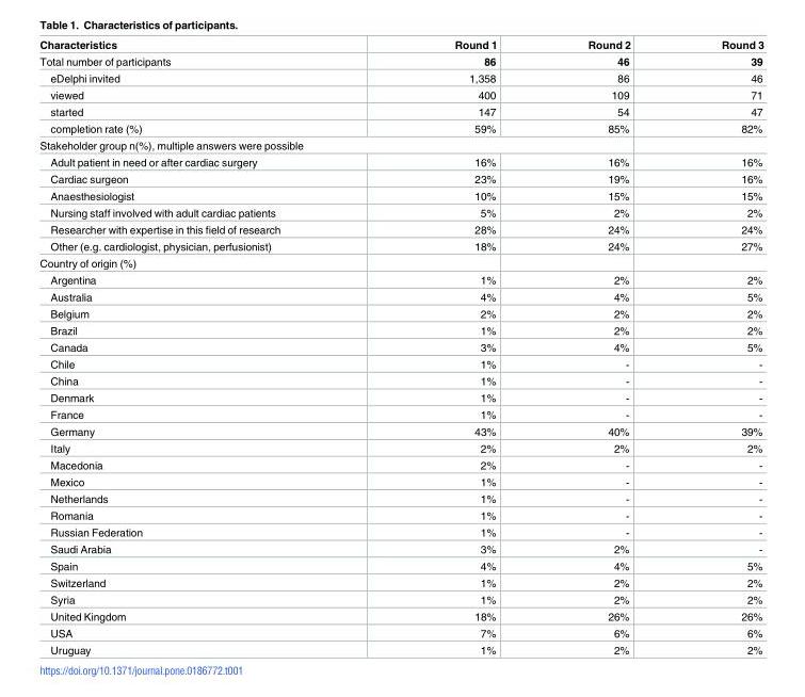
<table><thead><tr><td>Characteristics</td><td>Round 1</td><td>Round 2</td><td>Round 3</td></tr></thead><tbody><tr><td>Total number of participants</td><td>86</td><td>46</td><td>39</td></tr><tr><td>eDelphi invited</td><td>1,358</td><td>86</td><td>46</td></tr><tr><td>viewed</td><td>400</td><td>109</td><td>71</td></tr><tr><td>started</td><td>147</td><td>54</td><td>47</td></tr><tr><td>completion rate (%)</td><td>59%</td><td>85%</td><td>82%</td></tr><tr><td colspan="4">Stakeholder group n(%), multiple answers were possible</td></tr><tr><td>Adult patient in need or after cardiac surgery</td><td>16%</td><td>16%</td><td>16%</td></tr><tr><td>Cardiac surgeon</td><td>23%</td><td>19%</td><td>16%</td></tr><tr><td>Anaesthesiologist</td><td>10%</td><td>15%</td><td>15%</td></tr><tr><td>Nursing staff involved with adult cardiac patients</td><td>5%</td><td>2%</td><td>2%</td></tr><tr><td>Researcher with expertise in this field of research</td><td>28%</td><td>24%</td><td>24%</td></tr><tr><td>Other (e.g. cardiologist, physician, perfusionist)</td><td>18%</td><td>24%</td><td>27%</td></tr><tr><td colspan="4">Country of origin (%)</td></tr><tr><td>Argentina</td><td>1%</td><td>2%</td><td>2%</td></tr><tr><td>Australia</td><td>4%</td><td>4%</td><td>5%</td></tr><tr><td>Belgium</td><td>2%</td><td>2%</td><td>2%</td></tr><tr><td>Brazil</td><td>1%</td><td>2%</td><td>2%</td></tr><tr><td>Canada</td><td>3%</td><td>4%</td><td>5%</td></tr><tr><td>Chile</td><td>1%</td><td>-</td><td>-</td></tr><tr><td>China</td><td>1%</td><td>-</td><td>-</td></tr><tr><td>Denmark</td><td>1%</td><td>-</td><td>-</td></tr><tr><td>France</td><td>1%</td><td>-</td><td>-</td></tr><tr><td>Germany</td><td>43%</td><td>40%</td><td>39%</td></tr><tr><td>Italy</td><td>2%</td><td>2%</td><td>2%</td></tr><tr><td>Macedonia</td><td>2%</td><td>-</td><td>-</td></tr><tr><td>Mexico</td><td>1%</td><td>-</td><td>-</td></tr><tr><td>Netherlands</td><td>1%</td><td>-</td><td>-</td></tr><tr><td>Romania</td><td>1%</td><td>-</td><td>-</td></tr><tr><td>Russian Federation</td><td>1%</td><td>-</td><td>-</td></tr><tr><td>Saudi Arabia</td><td>3%</td><td>2%</td><td>-</td></tr><tr><td>Spain</td><td>4%</td><td>4%</td><td>5%</td></tr><tr><td>Switzerland</td><td>1%</td><td>2%</td><td>2%</td></tr><tr><td>Syria</td><td>1%</td><td>2%</td><td>2%</td></tr><tr><td>United Kingdom</td><td>18%</td><td>26%</td><td>26%</td></tr><tr><td>USA</td><td>7%</td><td>6%</td><td>6%</td></tr><tr><td>Uruguay</td><td>1%</td><td>2%</td><td>2%</td></tr></tbody></table>